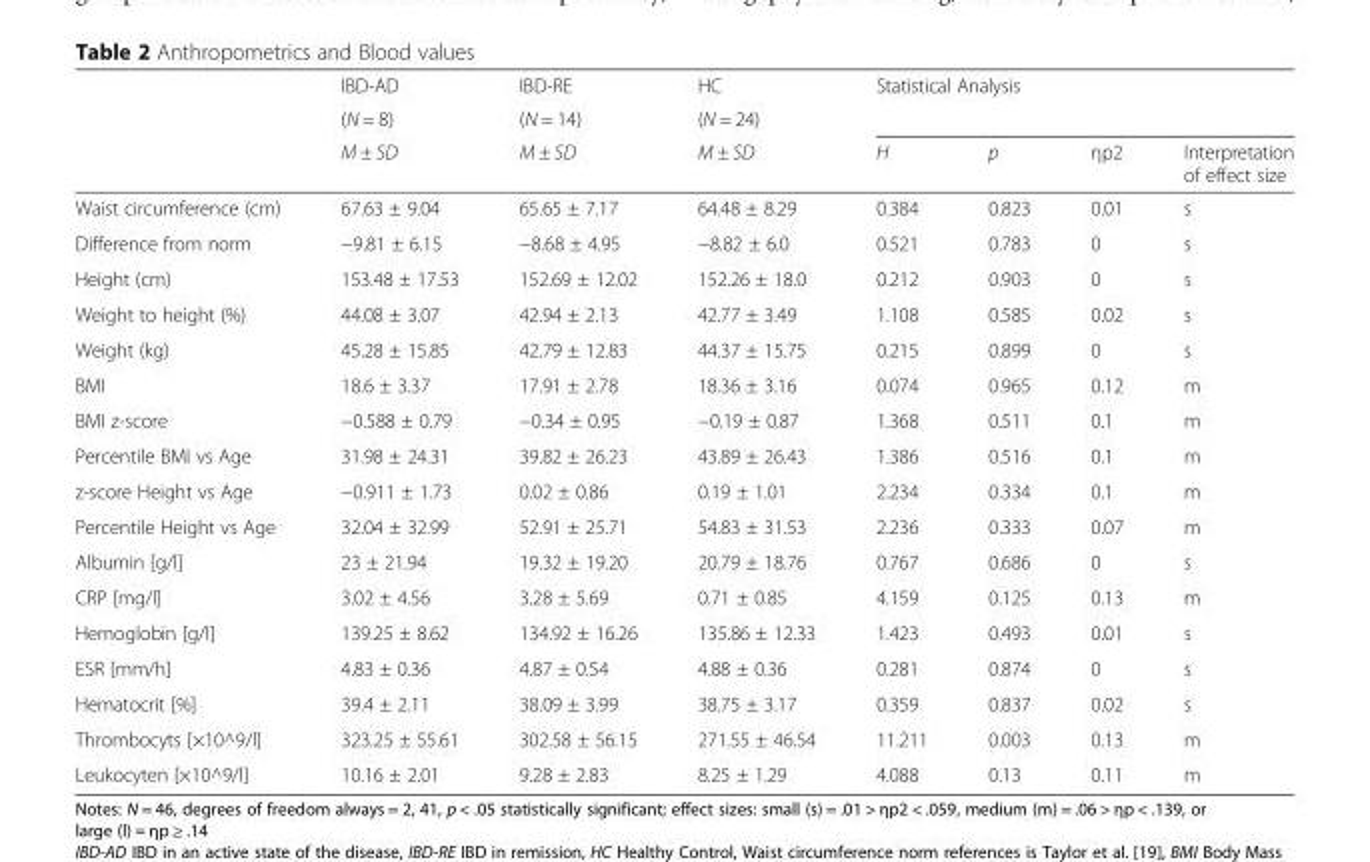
<table><thead><tr><td rowspan="3"></td><td rowspan="3">IBD-AD (N = 8) M ± SD</td><td rowspan="3">IBD-RE (N = 14) M ± SD</td><td rowspan="3">HC (N = 24) M ± SD</td><td rowspan="2" colspan="4">Statistical Analysis</td></tr><tr></tr><tr><td>H</td><td>p</td><td>ηp2</td><td>Interpretation of effect size</td></tr></thead><tbody><tr><td>Waist circumference (cm)</td><td>67.63 ± 9.04</td><td>65.65 ± 7.17</td><td>64.48 ± 8.29</td><td>0.384</td><td>0.823</td><td>0.01</td><td>s</td></tr><tr><td>Difference from norm</td><td>−9.81 ± 6.15</td><td>−8.68 ± 4.95</td><td>−8.82 ± 6.0</td><td>0.521</td><td>0.783</td><td>0</td><td>s</td></tr><tr><td>Height (cm)</td><td>153.48 ± 17.53</td><td>152.69 ± 12.02</td><td>152.26 ± 18.0</td><td>0.212</td><td>0.903</td><td>0</td><td>s</td></tr><tr><td>Weight to height (%)</td><td>44.08 ± 3.07</td><td>42.94 ± 2.13</td><td>42.77 ± 3.49</td><td>1.108</td><td>0.585</td><td>0.02</td><td>s</td></tr><tr><td>Weight (kg)</td><td>45.28 ± 15.85</td><td>42.79 ± 12.83</td><td>44.37 ± 15.75</td><td>0.215</td><td>0.899</td><td>0</td><td>s</td></tr><tr><td>BMI</td><td>18.6 ± 3.37</td><td>17.91 ± 2.78</td><td>18.36 ± 3.16</td><td>0.074</td><td>0.965</td><td>0.12</td><td>m</td></tr><tr><td>BMI z-score</td><td>−0.588 ± 0.79</td><td>−0.34 ± 0.95</td><td>−0.19 ± 0.87</td><td>1.368</td><td>0.511</td><td>0.1</td><td>m</td></tr><tr><td>Percentile BMI vs Age</td><td>31.98 ± 24.31</td><td>39.82 ± 26.23</td><td>43.89 ± 26.43</td><td>1.386</td><td>0.516</td><td>0.1</td><td>m</td></tr><tr><td>z-score Height vs Age</td><td>−0.911 ± 1.73</td><td>0.02 ± 0.86</td><td>0.19 ± 1.01</td><td>2.234</td><td>0.334</td><td>0.1</td><td>m</td></tr><tr><td>Percentile Height vs Age</td><td>32.04 ± 32.99</td><td>52.91 ± 25.71</td><td>54.83 ± 31.53</td><td>2.236</td><td>0.333</td><td>0.07</td><td>m</td></tr><tr><td>Albumin [g/l]</td><td>23 ± 21.94</td><td>19.32 ± 19.20</td><td>20.79 ± 18.76</td><td>0.767</td><td>0.686</td><td>0</td><td>s</td></tr><tr><td>CRP [mg/l]</td><td>3.02 ± 4.56</td><td>3.28 ± 5.69</td><td>0.71 ± 0.85</td><td>4.159</td><td>0.125</td><td>0.13</td><td>m</td></tr><tr><td>Hemoglobin [g/l]</td><td>139.25 ± 8.62</td><td>134.92 ± 16.26</td><td>135.86 ± 12.33</td><td>1.423</td><td>0.493</td><td>0.01</td><td>s</td></tr><tr><td>ESR [mm/h]</td><td>4.83 ± 0.36</td><td>4.87 ± 0.54</td><td>4.88 ± 0.36</td><td>0.281</td><td>0.874</td><td>0</td><td>s</td></tr><tr><td>Hematocrit [%]</td><td>39.4 ± 2.11</td><td>38.09 ± 3.99</td><td>38.75 ± 3.17</td><td>0.359</td><td>0.837</td><td>0.02</td><td>s</td></tr><tr><td>Thrombocyts [×10^9/l]</td><td>323.25 ± 55.61</td><td>302.58 ± 56.15</td><td>271.55 ± 46.54</td><td>11.211</td><td>0.003</td><td>0.13</td><td>m</td></tr><tr><td>Leukocyten [×10^9/l]</td><td>10.16 ± 2.01</td><td>9.28 ± 2.83</td><td>8.25 ± 1.29</td><td>4.088</td><td>0.13</td><td>0.11</td><td>m</td></tr></tbody></table>